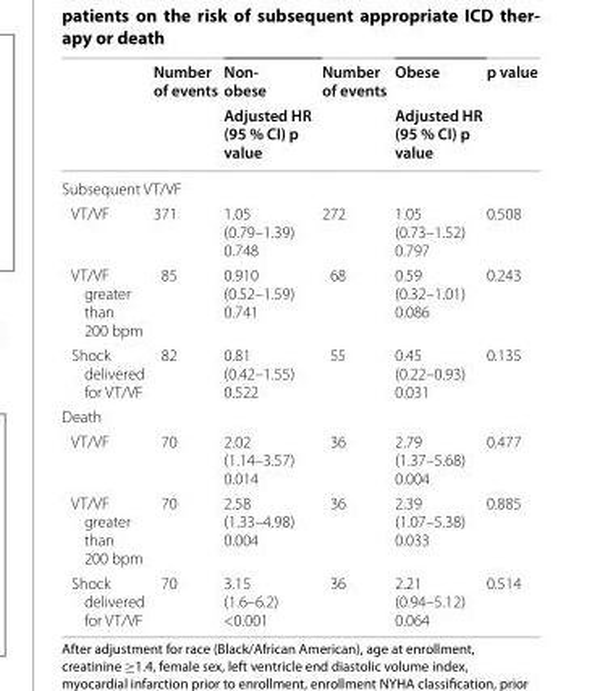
<table><thead><tr><td rowspan="2"></td><td rowspan="2">Number of events</td><td rowspan="2">Non- obese Adjusted HR (95 % CI) p value</td><td rowspan="2">Number of events</td><td rowspan="2">Obese Adjusted HR (95 % CI) p value</td><td rowspan="2">p value</td></tr><tr></tr></thead><tbody><tr><td colspan="6">Subsequent VT/VF</td></tr><tr><td>VT/VF</td><td>371</td><td>1.05 (0.79–1.39) 0.748</td><td>272</td><td>1.05 (0.73–1.52) 0.797</td><td>0.508</td></tr><tr><td>VT/VF greater than 200 bpm</td><td>85</td><td>0.910 (0.52–1.59) 0.741</td><td>68</td><td>0.59 (0.32–1.01) 0.086</td><td>0.243</td></tr><tr><td>Shock delivered for VT/VF</td><td>82</td><td>0.81 (0.42–1.55) 0.522</td><td>55</td><td>0.45 (0.22–0.93) 0.031</td><td>0.135</td></tr><tr><td colspan="6">Death</td></tr><tr><td>VT/VF</td><td>70</td><td>2.02 (1.14–3.57) 0.014</td><td>36</td><td>2.79 (1.37–5.68) 0.004</td><td>0.477</td></tr><tr><td>VT/VF greater than 200 bpm</td><td>70</td><td>2.58 (1.33–4.98) 0.004</td><td>36</td><td>2.39 (1.07–5.38) 0.033</td><td>0.885</td></tr><tr><td>Shock delivered for VT/VF</td><td>70</td><td>3.15 (1.6–6.2) &lt;0.001</td><td>36</td><td>2.21 (0.94–5.12) 0.064</td><td>0.514</td></tr></tbody></table>